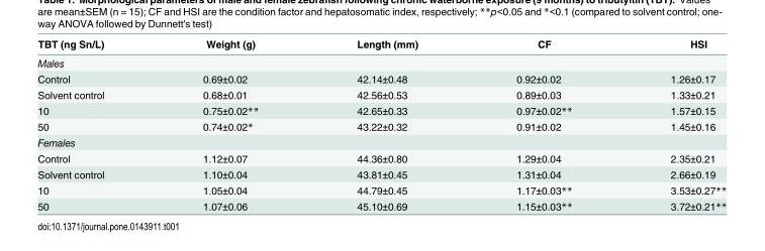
<table><thead><tr><td>TBT (ng Sn/L)</td><td>Weight (g)</td><td>Length (mm)</td><td>CF</td><td>HSI</td></tr></thead><tbody><tr><td colspan="5">Males</td></tr><tr><td>Control</td><td>0.69±0.02</td><td>42.14±0.48</td><td>0.92±0.02</td><td>1.26±0.17</td></tr><tr><td>Solvent control</td><td>0.68±0.01</td><td>42.56±0.53</td><td>0.89±0.03</td><td>1.33±0.21</td></tr><tr><td>10</td><td>0.75±0.02**</td><td>42.65±0.33</td><td>0.97±0.02**</td><td>1.57±0.15</td></tr><tr><td>50</td><td>0.74±0.02*</td><td>43.22±0.32</td><td>0.91±0.02</td><td>1.45±0.16</td></tr><tr><td colspan="5">Females</td></tr><tr><td>Control</td><td>1.12±0.07</td><td>44.36±0.80</td><td>1.29±0.04</td><td>2.35±0.21</td></tr><tr><td>Solvent control</td><td>1.10±0.04</td><td>43.81±0.45</td><td>1.31±0.04</td><td>2.66±0.19</td></tr><tr><td>10</td><td>1.05±0.04</td><td>44.79±0.45</td><td>1.17±0.03**</td><td>3.53±0.27**</td></tr><tr><td>50</td><td>1.07±0.06</td><td>45.10±0.69</td><td>1.15±0.03**</td><td>3.72±0.21**</td></tr></tbody></table>